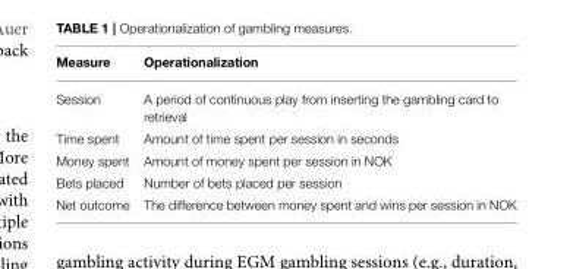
<table><thead><tr><td>Measure</td><td>Operationalization</td></tr></thead><tbody><tr><td>Session</td><td>A period of continuous play from inserting the gambling card to retrieval</td></tr><tr><td>Time spent</td><td>Amount of time spent per session in seconds</td></tr><tr><td>Money spent</td><td>Amount of money spent per session in NOK</td></tr><tr><td>Bets placed</td><td>Number of bets placed per session</td></tr><tr><td>Net outcome</td><td>The difference between money spent and wins per session in NOK</td></tr></tbody></table>